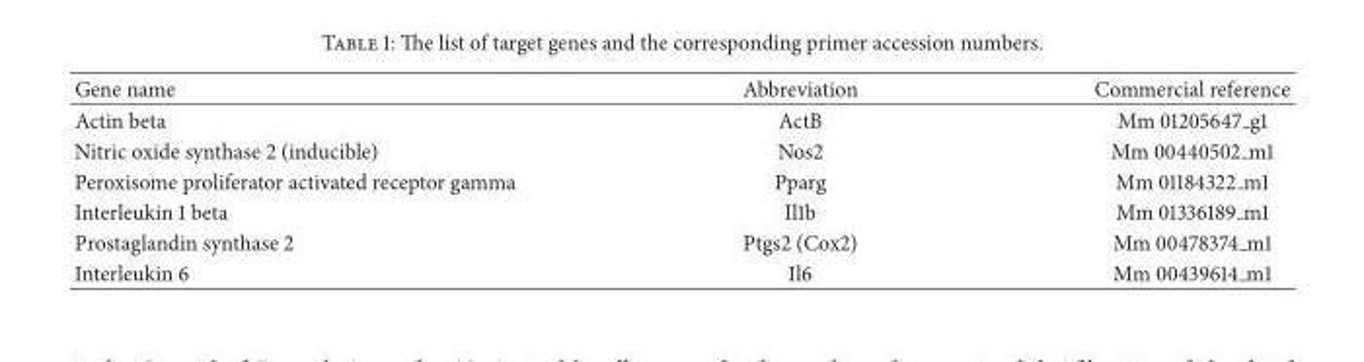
<table><thead><tr><td>Gene name</td><td>Abbreviation</td><td>Commercial reference</td></tr></thead><tbody><tr><td>Actin beta</td><td>ActB</td><td>Mm 01205647 g1</td></tr><tr><td>Nitric oxide synthase 2 (inducible)</td><td>Nos2</td><td>Mm 00440502 m1</td></tr><tr><td>Peroxisome proliferator activated receptor gamma</td><td>Pparg</td><td>Mm 01184322 m1</td></tr><tr><td>Interleukin 1 beta</td><td>Il1b</td><td>Mm 01336189 m1</td></tr><tr><td>Prostaglandin synthase 2</td><td>Ptgs2 (Cox2)</td><td>Mm 00478374 m1</td></tr><tr><td>Interleukin 6</td><td>Il6</td><td>Mm 00439614 m1</td></tr></tbody></table>